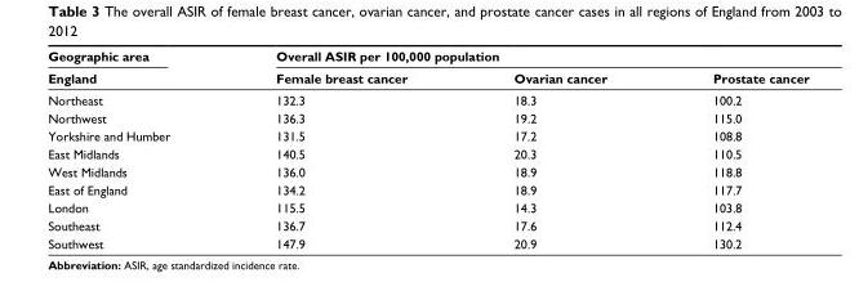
<table><thead><tr><td rowspan="2">Geographic area England</td><td colspan="3">Overall ASIR per 100,000 population</td></tr><tr><td>Female breast cancer</td><td>Ovarian cancer</td><td>Prostate cancer</td></tr></thead><tbody><tr><td>Northeast</td><td>132.3</td><td>18.3</td><td>100.2</td></tr><tr><td>Northwest</td><td>136.3</td><td>19.2</td><td>115.0</td></tr><tr><td>yorkshire and humber</td><td>131.5</td><td>17.2</td><td>108.8</td></tr><tr><td>east Midlands</td><td>140.5</td><td>20.3</td><td>110.5</td></tr><tr><td>West Midlands</td><td>136.0</td><td>18.9</td><td>118.8</td></tr><tr><td>east of england</td><td>134.2</td><td>18.9</td><td>117.7</td></tr><tr><td>london</td><td>115.5</td><td>14.3</td><td>103.8</td></tr><tr><td>Southeast</td><td>136.7</td><td>17.6</td><td>112.4</td></tr><tr><td>Southwest</td><td>147.9</td><td>20.9</td><td>130.2</td></tr></tbody></table>